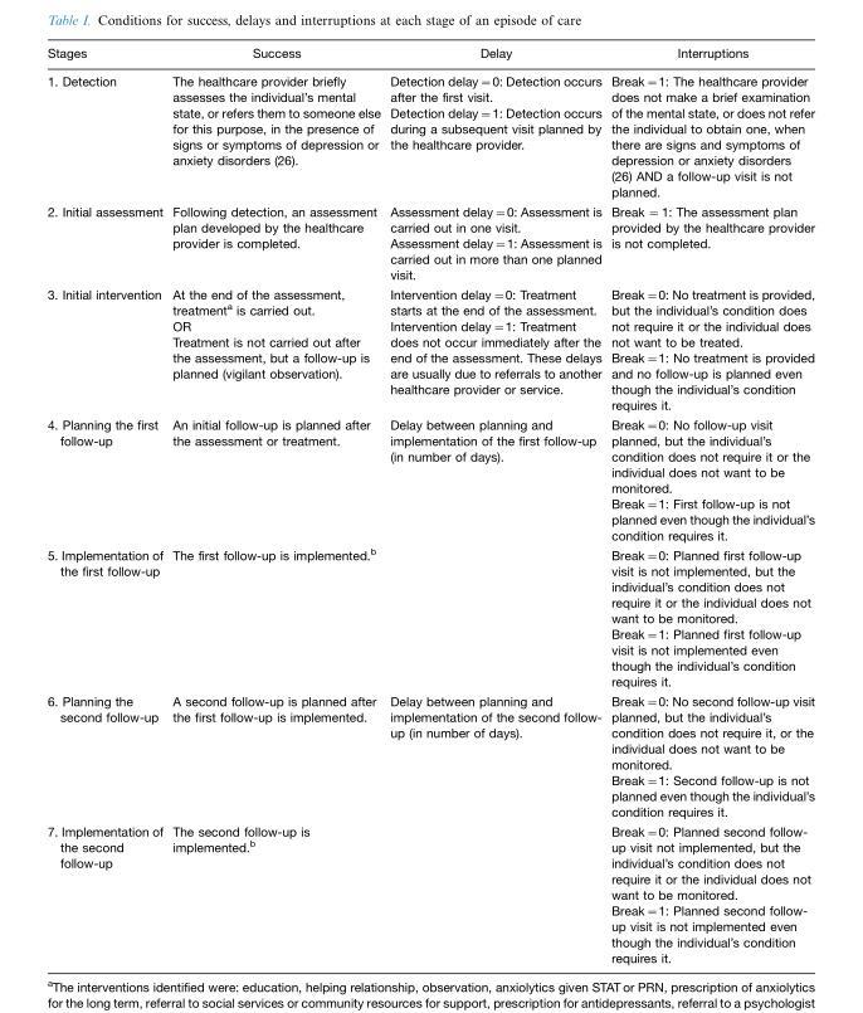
<table><thead><tr><td>Stages</td><td>Success</td><td>Delay</td><td>Interruptions</td></tr></thead><tbody><tr><td>1. Detection</td><td>The healthcare provider briefly assesses the individual’s mental state, or refers them to someone else for this purpose, in the presence of signs or symptoms of depression or anxiety disorders (26).</td><td>Detection delay=0: Detection occurs after the first visit. Detection delay=1: Detection occurs during a subsequent visit planned by the healthcare provider.</td><td>Break=1: The healthcare provider does not make a brief examination of the mental state, or does not refer the individual to obtain one, when there are signs and symptoms of depression or anxiety disorders (26) AND a follow-up visit is not planned.</td></tr><tr><td>2. Initial assessment</td><td>Following detection, an assessment plan developed by the healthcare provider is completed.</td><td>Assessment delay=0: Assessment is carried out in one visit. Assessment delay=1: Assessment is carried out in more than one planned visit.</td><td>Break =1: The assessment plan provided by the healthcare provider is not completed.</td></tr><tr><td>3. Initial intervention</td><td>At the end of the assessment, treatment<sup>a</sup> is carried out. OR Treatment is not carried out after the assessment, but a follow-up is planned (vigilant observation).</td><td>Intervention delay=0: Treatment starts at the end of the assessment. Intervention delay=1: Treatment does not occur immediately after the end of the assessment. These delays are usually due to referrals to another healthcare provider or service.</td><td>Break=0: No treatment is provided, but the individual’s condition does not require it or the individual does not want to be treated. Break=1: No treatment is provided and no follow-up is planned even though the individual’s condition requires it.</td></tr><tr><td>4. Planning the first follow-up</td><td>An initial follow-up is planned after the assessment or treatment.</td><td>Delay between planning and implementation of the first follow-up (in number of days).</td><td>Break=0: No follow-up visit planned, but the individual’s condition does not require it or the individual does not want to be monitored. Break=1: First follow-up is not planned even though the individual’s condition requires it.</td></tr><tr><td>5. Implementation of the first follow-up</td><td>The first follow-up is implemented.<sup>b</sup></td><td></td><td>Break=0: Planned first follow-up visit is not implemented, but the individual’s condition does not require it or the individual does not want to be monitored. Break=1: Planned first follow-up visit is not implemented even though the individual’s condition requires it.</td></tr><tr><td>6. Planning the second follow-up</td><td>A second follow-up is planned after the first follow-up is implemented.</td><td>Delay between planning and implementation of the second follow- up (in number of days).</td><td>Break=0: No second follow-up visit planned, but the individual’s condition does not require it, or the individual does not want to be monitored. Break=1: Second follow-up is not planned even though the individual’s condition requires it.</td></tr><tr><td>7. Implementation of the second follow-up</td><td>The second follow-up is implemented.<sup>b</sup></td><td></td><td>Break=0: Planned second follow- up visit not implemented, but the individual’s condition does not require it or the individual does not want to be monitored. Break=1: Planned second follow- up visit is not implemented even though the individual’s condition requires it.</td></tr></tbody></table>